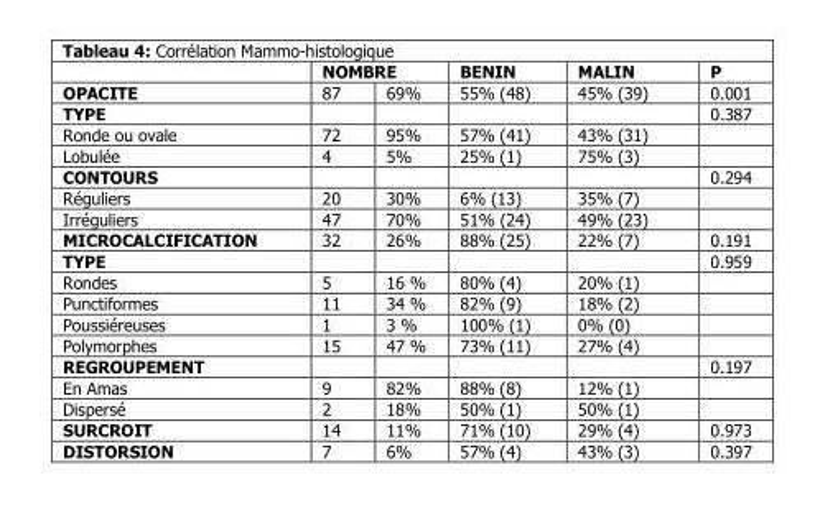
<table><thead><tr><td rowspan="2">OPACITE</td><td colspan="2">NOMBRE</td><td rowspan="2">BENIN 55% (48)</td><td rowspan="2">MALIN 45% (39)</td><td rowspan="2">P 0.001</td></tr><tr><td>87</td><td>69%</td></tr></thead><tbody><tr><td>TYPE</td><td></td><td></td><td></td><td></td><td>0.387</td></tr><tr><td>Ronde ou ovale</td><td>72</td><td>95%</td><td>57% (41)</td><td>43% (31)</td><td></td></tr><tr><td>Lobulée</td><td>4</td><td>5%</td><td>25% (1)</td><td>75% (3)</td><td></td></tr><tr><td>CONTOURS</td><td></td><td></td><td></td><td></td><td>0.294</td></tr><tr><td>Réguliers</td><td>20</td><td>30%</td><td>6% (13)</td><td>35% (7)</td><td></td></tr><tr><td>Irréguliers</td><td>47</td><td>70%</td><td>51% (24)</td><td>49% (23)</td><td></td></tr><tr><td>MICROCALCIFICATION</td><td>32</td><td>26%</td><td>88% (25)</td><td>22% (7)</td><td>0.191</td></tr><tr><td>TYPE</td><td></td><td></td><td></td><td></td><td>0.959</td></tr><tr><td>Rondes</td><td>5</td><td>16 %</td><td>80% (4)</td><td>20% (1)</td><td></td></tr><tr><td>Punctiformes</td><td>11</td><td>34 %</td><td>82% (9)</td><td>18% (2)</td><td></td></tr><tr><td>Poussiéreuses</td><td>1</td><td>3 %</td><td>100% (1)</td><td>0% (0)</td><td></td></tr><tr><td>Polymorphes</td><td>15</td><td>47 %</td><td>73% (11)</td><td>27% (4)</td><td></td></tr><tr><td>REGROUPEMENT</td><td></td><td></td><td></td><td></td><td>0.197</td></tr><tr><td>En Amas</td><td>9</td><td>82%</td><td>88% (8)</td><td>12% (1)</td><td></td></tr><tr><td>Dispersé</td><td>2</td><td>18%</td><td>50% (1)</td><td>50% (1)</td><td></td></tr><tr><td>SURCROIT</td><td>14</td><td>11%</td><td>71% (10)</td><td>29% (4)</td><td>0.973</td></tr><tr><td>DISTORSION</td><td>7</td><td>6%</td><td>57% (4)</td><td>43% (3)</td><td>0.397</td></tr></tbody></table>